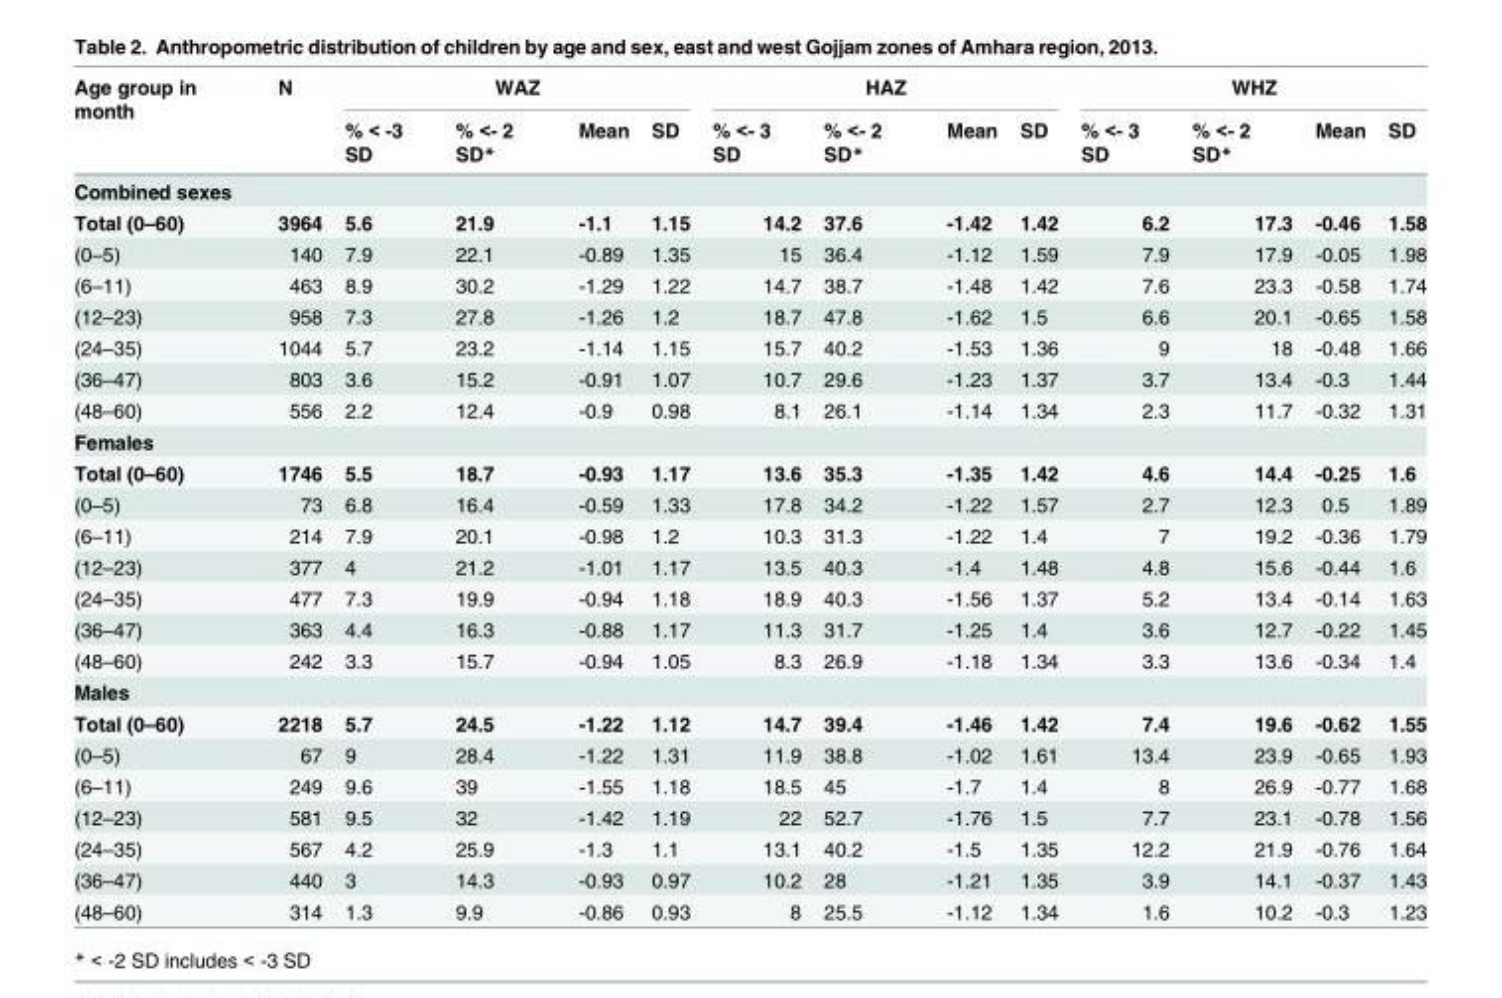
<table><thead><tr><td rowspan="2">Age group in month</td><td rowspan="2">N</td><td colspan="4">WAZ</td><td colspan="4">HAZ</td><td colspan="4">WHZ</td></tr><tr><td>% &lt; -3 SD</td><td>% &lt;- 2 SD*</td><td>Mean</td><td>SD</td><td>% &lt;- 3 SD</td><td>% &lt;- 2 SD*</td><td>Mean</td><td>SD</td><td>% &lt;- 3 SD</td><td>% &lt;- 2 SD*</td><td>Mean</td><td>SD</td></tr></thead><tbody><tr><td colspan="14">Combined sexes</td></tr><tr><td>Total (0–60)</td><td>3964</td><td>5.6</td><td>21.9</td><td>-1.1</td><td>1.15</td><td>14.2</td><td>37.6</td><td>-1.42</td><td>1.42</td><td>6.2</td><td>17.3</td><td>-0.46</td><td>1.58</td></tr><tr><td>(0–5)</td><td>140</td><td>7.9</td><td>22.1</td><td>-0.89</td><td>1.35</td><td>15</td><td>36.4</td><td>-1.12</td><td>1.59</td><td>7.9</td><td>17.9</td><td>-0.05</td><td>1.98</td></tr><tr><td>(6–11)</td><td>463</td><td>8.9</td><td>30.2</td><td>-1.29</td><td>1.22</td><td>14.7</td><td>38.7</td><td>-1.48</td><td>1.42</td><td>7.6</td><td>23.3</td><td>-0.58</td><td>1.74</td></tr><tr><td>(12–23)</td><td>958</td><td>7.3</td><td>27.8</td><td>-1.26</td><td>1.2</td><td>18.7</td><td>47.8</td><td>-1.62</td><td>1.5</td><td>6.6</td><td>20.1</td><td>-0.65</td><td>1.58</td></tr><tr><td>(24–35)</td><td>1044</td><td>5.7</td><td>23.2</td><td>-1.14</td><td>1.15</td><td>15.7</td><td>40.2</td><td>-1.53</td><td>1.36</td><td>9</td><td>18</td><td>-0.48</td><td>1.66</td></tr><tr><td>(36–47)</td><td>803</td><td>3.6</td><td>15.2</td><td>-0.91</td><td>1.07</td><td>10.7</td><td>29.6</td><td>-1.23</td><td>1.37</td><td>3.7</td><td>13.4</td><td>-0.3</td><td>1.44</td></tr><tr><td>(48–60)</td><td>556</td><td>2.2</td><td>12.4</td><td>-0.9</td><td>0.98</td><td>8.1</td><td>26.1</td><td>-1.14</td><td>1.34</td><td>2.3</td><td>11.7</td><td>-0.32</td><td>1.31</td></tr><tr><td colspan="14">Females</td></tr><tr><td>Total (0–60)</td><td>1746</td><td>5.5</td><td>18.7</td><td>-0.93</td><td>1.17</td><td>13.6</td><td>35.3</td><td>-1.35</td><td>1.42</td><td>4.6</td><td>14.4</td><td>-0.25</td><td>1.6</td></tr><tr><td>(0–5)</td><td>73</td><td>6.8</td><td>16.4</td><td>-0.59</td><td>1.33</td><td>17.8</td><td>34.2</td><td>-1.22</td><td>1.57</td><td>2.7</td><td>12.3</td><td>0.5</td><td>1.89</td></tr><tr><td>(6–11)</td><td>214</td><td>7.9</td><td>20.1</td><td>-0.98</td><td>1.2</td><td>10.3</td><td>31.3</td><td>-1.22</td><td>1.4</td><td>7</td><td>19.2</td><td>-0.36</td><td>1.79</td></tr><tr><td>(12–23)</td><td>377</td><td>4</td><td>21.2</td><td>-1.01</td><td>1.17</td><td>13.5</td><td>40.3</td><td>-1.4</td><td>1.48</td><td>4.8</td><td>15.6</td><td>-0.44</td><td>1.6</td></tr><tr><td>(24–35)</td><td>477</td><td>7.3</td><td>19.9</td><td>-0.94</td><td>1.18</td><td>18.9</td><td>40.3</td><td>-1.56</td><td>1.37</td><td>5.2</td><td>13.4</td><td>-0.14</td><td>1.63</td></tr><tr><td>(36–47)</td><td>363</td><td>4.4</td><td>16.3</td><td>-0.88</td><td>1.17</td><td>11.3</td><td>31.7</td><td>-1.25</td><td>1.4</td><td>3.6</td><td>12.7</td><td>-0.22</td><td>1.45</td></tr><tr><td>(48–60)</td><td>242</td><td>3.3</td><td>15.7</td><td>-0.94</td><td>1.05</td><td>8.3</td><td>26.9</td><td>-1.18</td><td>1.34</td><td>3.3</td><td>13.6</td><td>-0.34</td><td>1.4</td></tr><tr><td colspan="14">Males</td></tr><tr><td>Total (0–60)</td><td>2218</td><td>5.7</td><td>24.5</td><td>-1.22</td><td>1.12</td><td>14.7</td><td>39.4</td><td>-1.46</td><td>1.42</td><td>7.4</td><td>19.6</td><td>-0.62</td><td>1.55</td></tr><tr><td>(0–5)</td><td>67</td><td>9</td><td>28.4</td><td>-1.22</td><td>1.31</td><td>11.9</td><td>38.8</td><td>-1.02</td><td>1.61</td><td>13.4</td><td>23.9</td><td>-0.65</td><td>1.93</td></tr><tr><td>(6–11)</td><td>249</td><td>9.6</td><td>39</td><td>-1.55</td><td>1.18</td><td>18.5</td><td>45</td><td>-1.7</td><td>1.4</td><td>8</td><td>26.9</td><td>-0.77</td><td>1.68</td></tr><tr><td>(12–23)</td><td>581</td><td>9.5</td><td>32</td><td>-1.42</td><td>1.19</td><td>22</td><td>52.7</td><td>-1.76</td><td>1.5</td><td>7.7</td><td>23.1</td><td>-0.78</td><td>1.56</td></tr><tr><td>(24–35)</td><td>567</td><td>4.2</td><td>25.9</td><td>-1.3</td><td>1.1</td><td>13.1</td><td>40.2</td><td>-1.5</td><td>1.35</td><td>12.2</td><td>21.9</td><td>-0.76</td><td>1.64</td></tr><tr><td>(36–47)</td><td>440</td><td>3</td><td>14.3</td><td>-0.93</td><td>0.97</td><td>10.2</td><td>28</td><td>-1.21</td><td>1.35</td><td>3.9</td><td>14.1</td><td>-0.37</td><td>1.43</td></tr><tr><td>(48–60)</td><td>314</td><td>1.3</td><td>9.9</td><td>-0.86</td><td>0.93</td><td>8</td><td>25.5</td><td>-1.12</td><td>1.34</td><td>1.6</td><td>10.2</td><td>-0.3</td><td>1.23</td></tr></tbody></table>